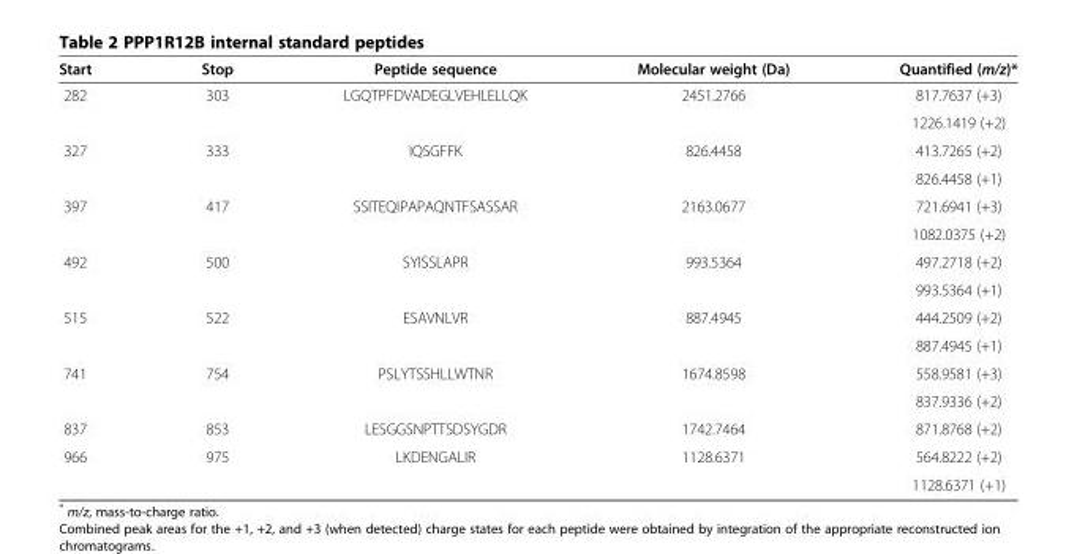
<table><thead><tr><td>Start</td><td>Stop</td><td>Peptide sequence</td><td>Molecular weight (Da)</td><td>Quantified (m/z)*</td></tr></thead><tbody><tr><td rowspan="2">282</td><td>303</td><td>LGQTPFDVADEGLVEHLELLQK</td><td>2451.2766</td><td>817.7637 (+3)</td></tr><tr><td></td><td></td><td></td><td>1226.1419 (+2)</td></tr><tr><td rowspan="2">327</td><td>333</td><td>IQSGFFK</td><td>826.4458</td><td>413.7265 (+2)</td></tr><tr><td></td><td></td><td></td><td>826.4458 (+1)</td></tr><tr><td rowspan="2">397</td><td>417</td><td>SSITEQIPAPAQNTFSASSAR</td><td>2163.0677</td><td>721.6941 (+3)</td></tr><tr><td></td><td></td><td></td><td>1082.0375 (+2)</td></tr><tr><td rowspan="2">492</td><td>500</td><td>SYISSLAPR</td><td>993.5364</td><td>497.2718 (+2)</td></tr><tr><td></td><td></td><td></td><td>993.5364 (+1)</td></tr><tr><td rowspan="2">515</td><td>522</td><td>ESAVNLVR</td><td>887.4945</td><td>444.2509 (+2)</td></tr><tr><td></td><td></td><td></td><td>887.4945 (+1)</td></tr><tr><td rowspan="2">741</td><td>754</td><td>PSLYTSSHLLWTNR</td><td>1674.8598</td><td>558.9581 (+3)</td></tr><tr><td></td><td></td><td></td><td>837.9336 (+2)</td></tr><tr><td>837</td><td>853</td><td>LESGGSNPTTSDSYGDR</td><td>1742.7464</td><td>871.8768 (+2)</td></tr><tr><td rowspan="2">966</td><td>975</td><td>LKDENGALIR</td><td>1128.6371</td><td>564.8222 (+2)</td></tr><tr><td></td><td></td><td></td><td>1128.6371 (+1)</td></tr></tbody></table>